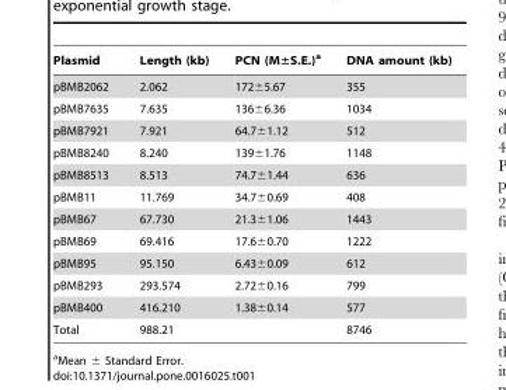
<table><thead><tr><td>Plasmid</td><td>Length (kb)</td><td>PCN (M±S.E.)<sup>a</sup></td><td>DNA amount (kb)</td></tr></thead><tbody><tr><td>pBMB2062</td><td>2.062</td><td>172±5.67</td><td>355</td></tr><tr><td>pBMB7635</td><td>7.635</td><td>136±6.36</td><td>1034</td></tr><tr><td>pBMB7921</td><td>7.921</td><td>64.7±1.12</td><td>512</td></tr><tr><td>pBMB8240</td><td>8.240</td><td>139±1.76</td><td>1148</td></tr><tr><td>pBMB8513</td><td>8.513</td><td>74.7±1.44</td><td>636</td></tr><tr><td>pBMB11</td><td>11.769</td><td>34.7±0.69</td><td>408</td></tr><tr><td>pBMB67</td><td>67.730</td><td>21.3±1.06</td><td>1443</td></tr><tr><td>pBMB69</td><td>69.416</td><td>17.6±0.70</td><td>1222</td></tr><tr><td>pBMB95</td><td>95.150</td><td>6.43±0.09</td><td>612</td></tr><tr><td>pBMB293</td><td>293.574</td><td>2.72±0.16</td><td>799</td></tr><tr><td>pBMB400</td><td>416.210</td><td>1.38±0.14</td><td>577</td></tr><tr><td>Total</td><td>988.21</td><td></td><td>8746</td></tr></tbody></table>